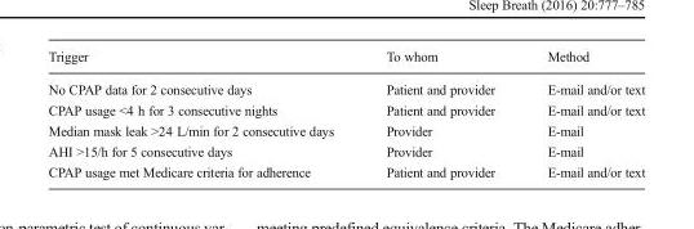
<table><thead><tr><td>Trigger</td><td>To whom</td><td>Method</td></tr></thead><tbody><tr><td>No CPAP data for 2 consecutive days</td><td>Patient and provider</td><td>E-mail and/or text</td></tr><tr><td>CPAP usage &lt;4 h for 3 consecutive nights</td><td>Patient and provider</td><td>E-mail and/or text</td></tr><tr><td>Median mask leak &gt;24 L/min for 2 consecutive days</td><td>Provider</td><td>E-mail</td></tr><tr><td>AHI &gt;15/h for 5 consecutive days</td><td>Provider</td><td>E-mail</td></tr><tr><td>CPAP usage met Medicare criteria for adherence</td><td>Patient and provider</td><td>E-mail and/or text</td></tr></tbody></table>